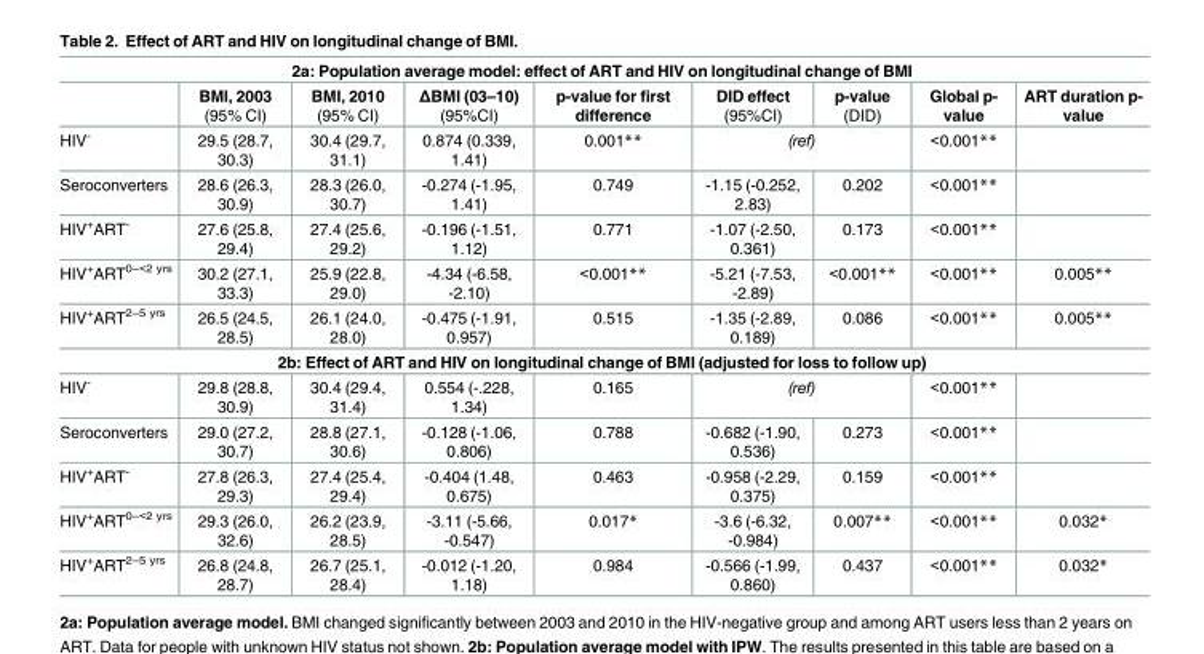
<table><tbody><tr><td colspan="9">2a: Population average model: effect of ART and HIV on longitudinal change of BMI</td></tr><tr><td></td><td>BMI, 2003 (95% CI)</td><td>BMI, 2010 (95% CI)</td><td>ΔBMI (03–10) (95%CI)</td><td>p-value for first difference</td><td>DID effect (95%CI)</td><td>p-value (DID)</td><td>Global p- value</td><td>ART duration p- value</td></tr><tr><td>HIV<sup>-</sup></td><td>29.5 (28.7, 30.3)</td><td>30.4 (29.7, 31.1)</td><td>0.874 (0.339, 1.41)</td><td>0.001**</td><td colspan="2">(ref)</td><td>&lt;0.001**</td><td></td></tr><tr><td>Seroconverters</td><td>28.6 (26.3, 30.9)</td><td>28.3 (26.0, 30.7)</td><td>-0.274 (-1.95, 1.41)</td><td>0.749</td><td>-1.15 (-0.252, 2.83)</td><td>0.202</td><td>&lt;0.001**</td><td></td></tr><tr><td>HIV<sup>+</sup>ART<sup>-</sup></td><td>27.6 (25.8, 29.4)</td><td>27.4 (25.6, 29.2)</td><td>-0.196 (-1.51, 1.12)</td><td>0.771</td><td>-1.07 (-2.50, 0.361)</td><td>0.173</td><td>&lt;0.001**</td><td></td></tr><tr><td>HIV<sup>+</sup>ART<sup>0–&lt;2 yrs</sup></td><td>30.2 (27.1, 33.3)</td><td>25.9 (22.8, 29.0)</td><td>-4.34 (-6.58, -2.10)</td><td>&lt;0.001**</td><td>-5.21 (-7.53, -2.89)</td><td>&lt;0.001**</td><td>&lt;0.001**</td><td>0.005**</td></tr><tr><td>HIV<sup>+</sup>ART<sup>2–5 yrs</sup></td><td>26.5 (24.5, 28.5)</td><td>26.1 (24.0, 28.0)</td><td>-0.475 (-1.91, 0.957)</td><td>0.515</td><td>-1.35 (-2.89, 0.189)</td><td>0.086</td><td>&lt;0.001**</td><td>0.005**</td></tr><tr><td colspan="9">2b: Effect of ART and HIV on longitudinal change of BMI (adjusted for loss to follow up)</td></tr><tr><td>HIV<sup>-</sup></td><td>29.8 (28.8, 30.9)</td><td>30.4 (29.4, 31.4)</td><td>0.554 (-.228, 1.34)</td><td>0.165</td><td colspan="2">(ref)</td><td>&lt;0.001**</td><td></td></tr><tr><td>Seroconverters</td><td>29.0 (27.2, 30.7)</td><td>28.8 (27.1, 30.6)</td><td>-0.128 (-1.06, 0.806)</td><td>0.788</td><td>-0.682 (-1.90, 0.536)</td><td>0.273</td><td>&lt;0.001**</td><td></td></tr><tr><td>HIV<sup>+</sup>ART<sup>-</sup></td><td>27.8 (26.3, 29.3)</td><td>27.4 (25.4, 29.4)</td><td>-0.404 (1.48, 0.675)</td><td>0.463</td><td>-0.958 (-2.29, 0.375)</td><td>0.159</td><td>&lt;0.001**</td><td></td></tr><tr><td>HIV<sup>+</sup>ART<sup>0–&lt;2 yrs</sup></td><td>29.3 (26.0, 32.6)</td><td>26.2 (23.9, 28.5)</td><td>-3.11 (-5.66, -0.547)</td><td>0.017*</td><td>-3.6 (-6.32, -0.984)</td><td>0.007**</td><td>&lt;0.001**</td><td>0.032*</td></tr><tr><td>HIV<sup>+</sup>ART<sup>2–5 yrs</sup></td><td>26.8 (24.8, 28.7)</td><td>26.7 (25.1, 28.4)</td><td>-0.012 (-1.20, 1.18)</td><td>0.984</td><td>-0.566 (-1.99, 0.860)</td><td>0.437</td><td>&lt;0.001**</td><td>0.032*</td></tr></tbody></table>